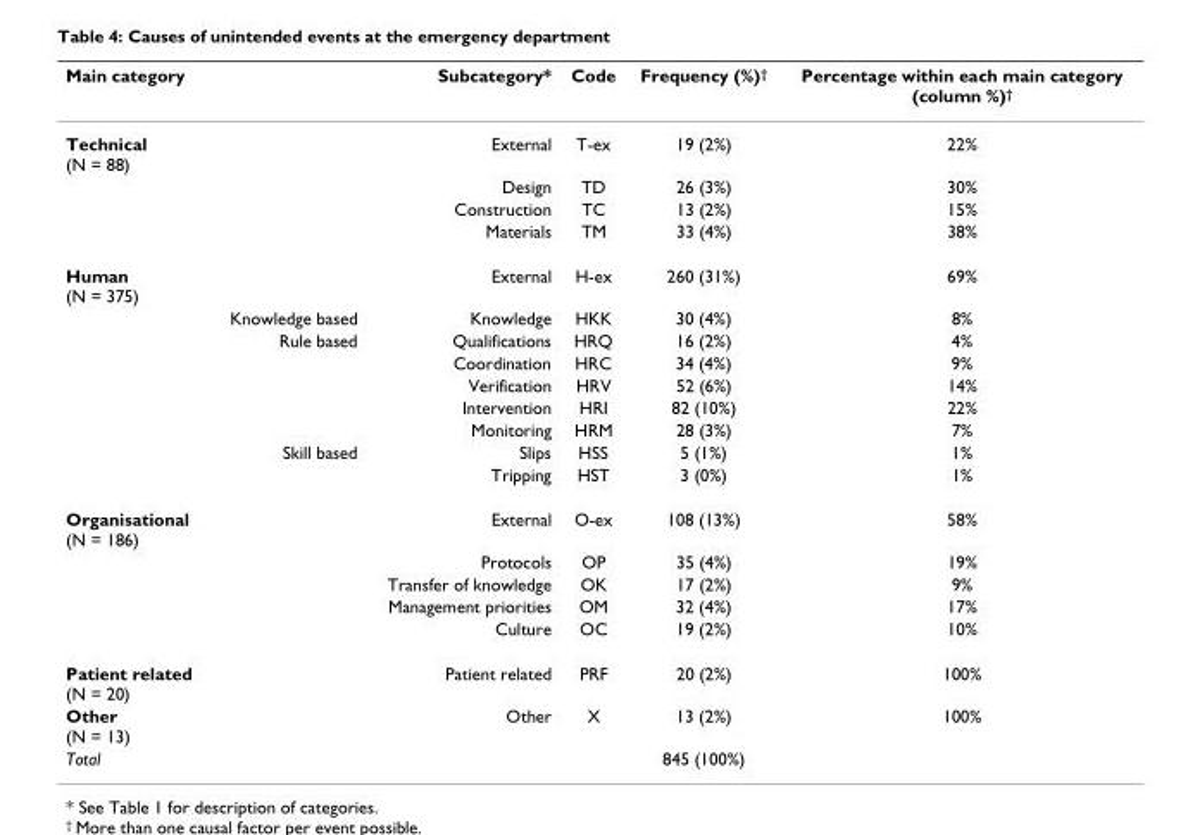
<table><thead><tr><td>Main category</td><td></td><td>Subcategory*</td><td>Code</td><td>Frequency (%)<sup>†</sup></td><td>Percentage within each main category (column %)<sup>†</sup></td></tr></thead><tbody><tr><td rowspan="4">Technical (N = 88)</td><td></td><td>External</td><td>T-ex</td><td>19 (2%)</td><td>22%</td></tr><tr><td></td><td>Design</td><td>TD</td><td>26 (3%)</td><td>30%</td></tr><tr><td></td><td>Construction</td><td>TC</td><td>13 (2%)</td><td>15%</td></tr><tr><td></td><td>Materials</td><td>TM</td><td>33 (4%)</td><td>38%</td></tr><tr><td rowspan="9">Human (N = 375)</td><td></td><td>External</td><td>H-ex</td><td>260 (31%)</td><td>69%</td></tr><tr><td>Knowledge based</td><td>Knowledge</td><td>HKK</td><td>30 (4%)</td><td>8%</td></tr><tr><td>Rule based</td><td>Qualifications</td><td>HRQ</td><td>16 (2%)</td><td>4%</td></tr><tr><td></td><td>Coordination</td><td>HRC</td><td>34 (4%)</td><td>9%</td></tr><tr><td></td><td>Verification</td><td>HRV</td><td>52 (6%)</td><td>14%</td></tr><tr><td></td><td>Intervention</td><td>HRI</td><td>82 (10%)</td><td>22%</td></tr><tr><td></td><td>Monitoring</td><td>HRM</td><td>28 (3%)</td><td>7%</td></tr><tr><td>Skill based</td><td>Slips</td><td>HSS</td><td>5 (1%)</td><td>1%</td></tr><tr><td></td><td>Tripping</td><td>HST</td><td>3 (0%)</td><td>1%</td></tr><tr><td rowspan="5">Organisational (N = 186)</td><td></td><td>External</td><td>O-ex</td><td>108 (13%)</td><td>58%</td></tr><tr><td></td><td>Protocols</td><td>OP</td><td>35 (4%)</td><td>19%</td></tr><tr><td></td><td>Transfer of knowledge</td><td>OK</td><td>17 (2%)</td><td>9%</td></tr><tr><td></td><td>Management priorities</td><td>OM</td><td>32 (4%)</td><td>17%</td></tr><tr><td></td><td>Culture</td><td>OC</td><td>19 (2%)</td><td>10%</td></tr><tr><td>Patient related (N = 20)</td><td></td><td>Patient related</td><td>PRF</td><td>20 (2%)</td><td>100%</td></tr><tr><td>Other (N = 13)</td><td></td><td>Other</td><td>X</td><td>13 (2%)</td><td>100%</td></tr><tr><td>Total</td><td></td><td></td><td></td><td>845 (100%)</td><td></td></tr></tbody></table>